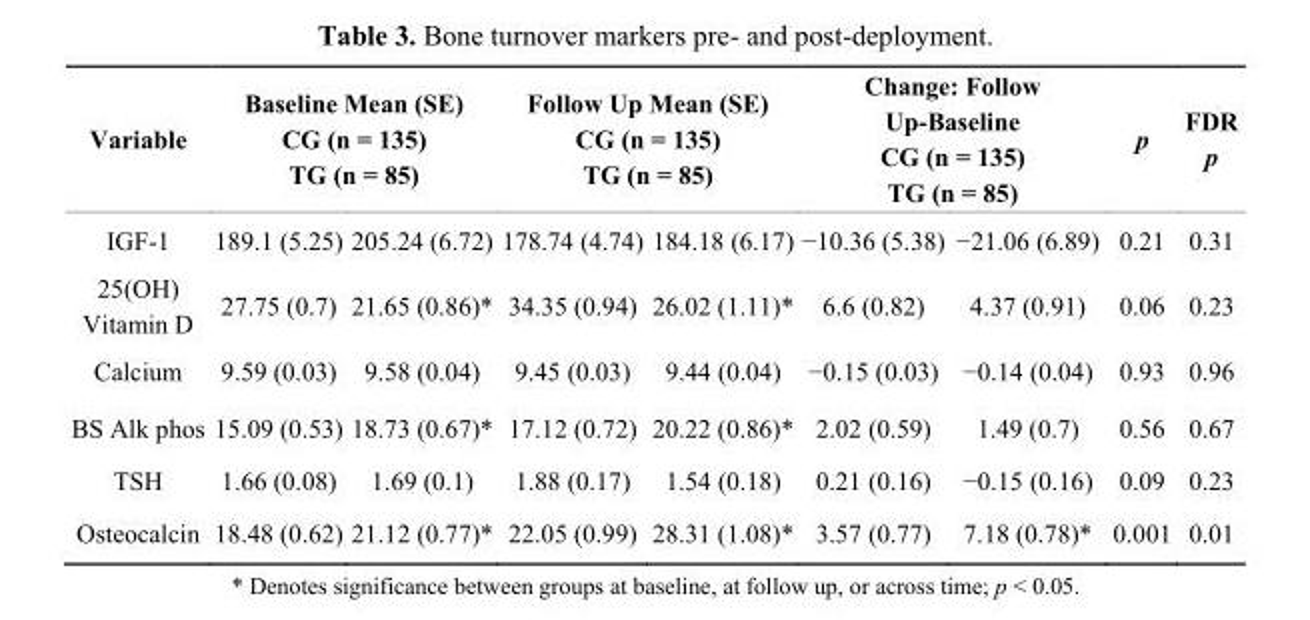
<table><thead><tr><td rowspan="2">Variable IGF-1</td><td colspan="2">Baseline Mean (SE) CG (n = 135) TG (n = 85)</td><td colspan="2">Follow Up Mean (SE) CG (n = 135) TG (n = 85)</td><td colspan="2">Change: Follow Up-Baseline CG (n = 135) TG (n = 85)</td><td rowspan="2">p 0.21</td><td rowspan="2">FDR p 0.31</td></tr><tr><td>189.1 (5.25)</td><td>205.24 (6.72)</td><td>178.74 (4.74)</td><td>184.18 (6.17)</td><td>−10.36 (5.38)</td><td>−21.06 (6.89)</td></tr></thead><tbody><tr><td>25(OH) Vitamin D</td><td>27.75 (0.7)</td><td>21.65 (0.86)*</td><td>34.35 (0.94)</td><td>26.02 (1.11)*</td><td>6.6 (0.82)</td><td>4.37 (0.91)</td><td>0.06</td><td>0.23</td></tr><tr><td>Calcium</td><td>9.59 (0.03)</td><td>9.58 (0.04)</td><td>9.45 (0.03)</td><td>9.44 (0.04)</td><td>−0.15 (0.03)</td><td>−0.14 (0.04)</td><td>0.93</td><td>0.96</td></tr><tr><td>BS Alk phos</td><td>15.09 (0.53)</td><td>18.73 (0.67)*</td><td>17.12 (0.72)</td><td>20.22 (0.86)*</td><td>2.02 (0.59)</td><td>1.49 (0.7)</td><td>0.56</td><td>0.67</td></tr><tr><td>TSH</td><td>1.66 (0.08)</td><td>1.69 (0.1)</td><td>1.88 (0.17)</td><td>1.54 (0.18)</td><td>0.21 (0.16)</td><td>−0.15 (0.16)</td><td>0.09</td><td>0.23</td></tr><tr><td>Osteocalcin</td><td>18.48 (0.62)</td><td>21.12 (0.77)*</td><td>22.05 (0.99)</td><td>28.31 (1.08)*</td><td>3.57 (0.77)</td><td>7.18 (0.78)*</td><td>0.001</td><td>0.01</td></tr></tbody></table>